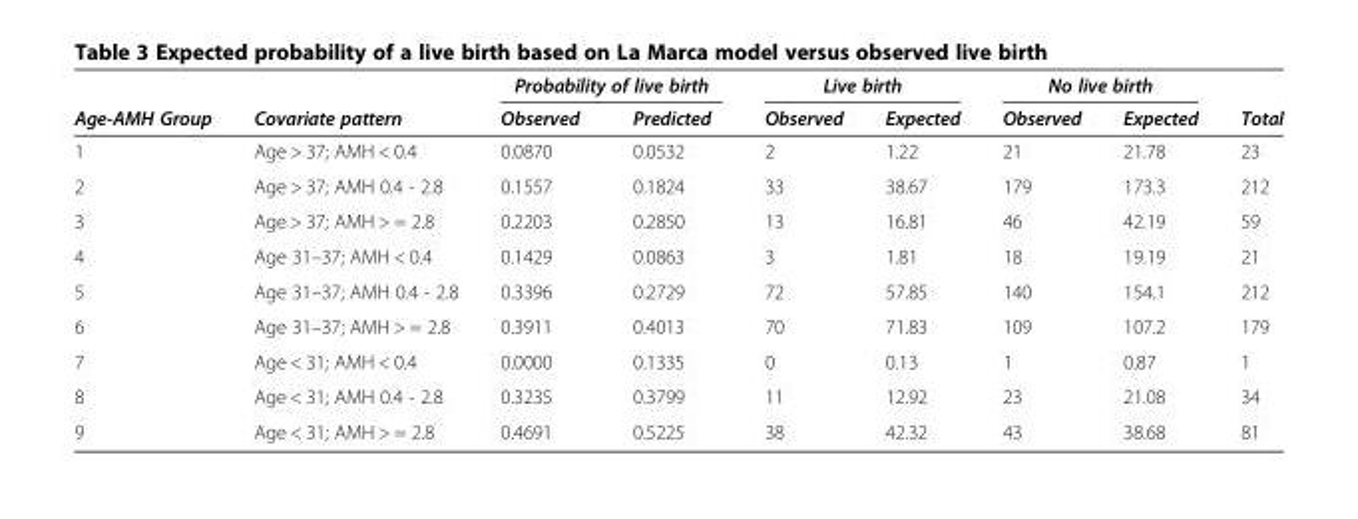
<table><thead><tr><td rowspan="2">Age-AMH Group</td><td rowspan="2">Covariate pattern</td><td colspan="2">Probability of live birth</td><td colspan="2">Live birth</td><td colspan="2">No live birth</td><td rowspan="2">Total</td></tr><tr><td>Observed</td><td>Predicted</td><td>Observed</td><td>Expected</td><td>Observed</td><td>Expected</td></tr></thead><tbody><tr><td>1</td><td>Age &gt; 37; AMH &lt; 0.4</td><td>0.0870</td><td>0.0532</td><td>2</td><td>1.22</td><td>21</td><td>21.78</td><td>23</td></tr><tr><td>2</td><td>Age &gt; 37; AMH 0.4 - 2.8</td><td>0.1557</td><td>0.1824</td><td>33</td><td>38.67</td><td>179</td><td>173.3</td><td>212</td></tr><tr><td>3</td><td>Age &gt; 37; AMH &gt; = 2.8</td><td>0.2203</td><td>0.2850</td><td>13</td><td>16.81</td><td>46</td><td>42.19</td><td>59</td></tr><tr><td>4</td><td>Age 31–37; AMH &lt; 0.4</td><td>0.1429</td><td>0.0863</td><td>3</td><td>1.81</td><td>18</td><td>19.19</td><td>21</td></tr><tr><td>5</td><td>Age 31–37; AMH 0.4 - 2.8</td><td>0.3396</td><td>0.2729</td><td>72</td><td>57.85</td><td>140</td><td>154.1</td><td>212</td></tr><tr><td>6</td><td>Age 31–37; AMH &gt; = 2.8</td><td>0.3911</td><td>0.4013</td><td>70</td><td>71.83</td><td>109</td><td>107.2</td><td>179</td></tr><tr><td>7</td><td>Age &lt; 31; AMH &lt; 0.4</td><td>0.0000</td><td>0.1335</td><td>0</td><td>0.13</td><td>1</td><td>0.87</td><td>1</td></tr><tr><td>8</td><td>Age &lt; 31; AMH 0.4 - 2.8</td><td>0.3235</td><td>0.3799</td><td>11</td><td>12.92</td><td>23</td><td>21.08</td><td>34</td></tr><tr><td>9</td><td>Age &lt; 31; AMH &gt; = 2.8</td><td>0.4691</td><td>0.5225</td><td>38</td><td>42.32</td><td>43</td><td>38.68</td><td>81</td></tr></tbody></table>